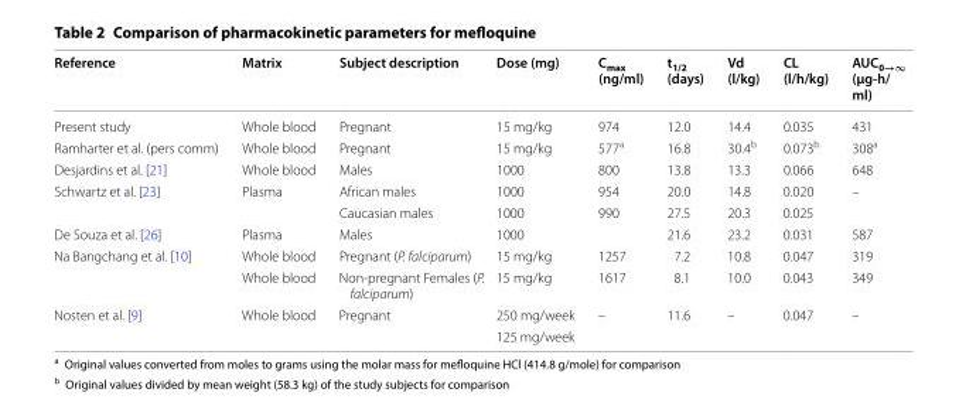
<table><thead><tr><td>Reference</td><td>Matrix</td><td>Subject description</td><td>Dose (mg)</td><td>C<sub>max</sub> (ng/ml)</td><td>t<sub>1/2</sub> (days)</td><td>Vd (l/kg)</td><td>CL (l/h/kg)</td><td>AUC<sub>0→∞</sub> (µg-h/ ml)</td></tr></thead><tbody><tr><td>Present study</td><td>Whole blood</td><td>Pregnant</td><td>15 mg/kg</td><td>974</td><td>12.0</td><td>14.4</td><td>0.035</td><td>431</td></tr><tr><td>Ramharter et al. (pers comm)</td><td>Whole blood</td><td>Pregnant</td><td>15 mg/kg</td><td>577<sup>a</sup></td><td>16.8</td><td>30.4<sup>b</sup></td><td>0.073<sup>b</sup></td><td>308<sup>a</sup></td></tr><tr><td>Desjardins et al. [21]</td><td>Whole blood</td><td>Males</td><td>1000</td><td>800</td><td>13.8</td><td>13.3</td><td>0.066</td><td>648</td></tr><tr><td rowspan="2">Schwartz et al. [23]</td><td rowspan="2">Plasma</td><td>African males</td><td>1000</td><td>954</td><td>20.0</td><td>14.8</td><td>0.020</td><td>–</td></tr><tr><td>Caucasian males</td><td>1000</td><td>990</td><td>27.5</td><td>20.3</td><td>0.025</td><td></td></tr><tr><td>De Souza et al. [26]</td><td>Plasma</td><td>Males</td><td>1000</td><td></td><td>21.6</td><td>23.2</td><td>0.031</td><td>587</td></tr><tr><td rowspan="2">Na Bangchang et al. [10]</td><td>Whole blood</td><td>Pregnant (P. falciparum)</td><td>15 mg/kg</td><td>1257</td><td>7.2</td><td>10.8</td><td>0.047</td><td>319</td></tr><tr><td>Whole blood</td><td>Non-pregnant Females (P. falciparum)</td><td>15 mg/kg</td><td>1617</td><td>8.1</td><td>10.0</td><td>0.043</td><td>349</td></tr><tr><td rowspan="2">Nosten et al. [9]</td><td rowspan="2">Whole blood</td><td rowspan="2">Pregnant</td><td>250 mg/week</td><td>–</td><td>11.6</td><td>–</td><td>0.047</td><td>–</td></tr><tr><td>125 mg/week</td><td></td><td></td><td></td><td></td><td></td></tr></tbody></table>